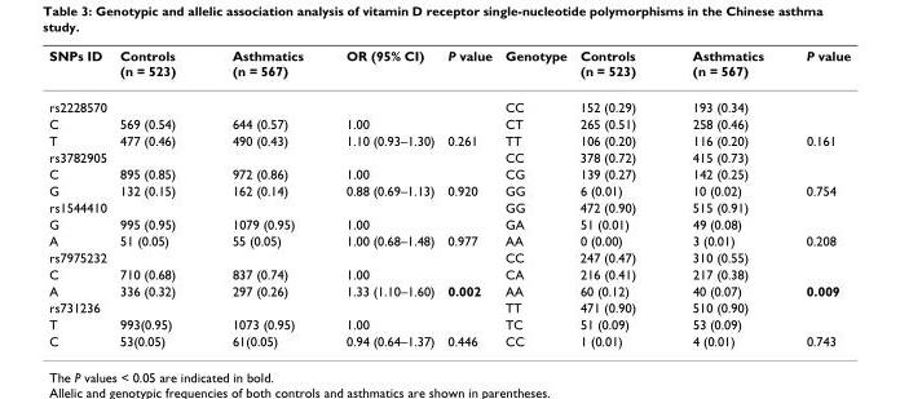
<table><thead><tr><td>SNPs ID</td><td>Controls (n = 523)</td><td>Asthmatics (n = 567)</td><td>OR (95% CI)</td><td>P value</td><td>Genotype</td><td>Controls (n = 523)</td><td>Asthmatics (n = 567)</td><td>P value</td></tr></thead><tbody><tr><td>rs2228570</td><td></td><td></td><td></td><td></td><td>CC</td><td>152 (0.29)</td><td>193 (0.34)</td><td></td></tr><tr><td>C</td><td>569 (0.54)</td><td>644 (0.57)</td><td>1.00</td><td></td><td>CT</td><td>265 (0.51)</td><td>258 (0.46)</td><td></td></tr><tr><td>T</td><td>477 (0.46)</td><td>490 (0.43)</td><td>1.10 (0.93–1.30)</td><td>0.261</td><td>TT</td><td>106 (0.20)</td><td>116 (0.20)</td><td>0.161</td></tr><tr><td>rs3782905</td><td></td><td></td><td></td><td></td><td>CC</td><td>378 (0.72)</td><td>415 (0.73)</td><td></td></tr><tr><td>C</td><td>895 (0.85)</td><td>972 (0.86)</td><td>1.00</td><td></td><td>CG</td><td>139 (0.27)</td><td>142 (0.25)</td><td></td></tr><tr><td>G</td><td>132 (0.15)</td><td>162 (0.14)</td><td>0.88 (0.69–1.13)</td><td>0.920</td><td>GG</td><td>6 (0.01)</td><td>10 (0.02)</td><td>0.754</td></tr><tr><td>rs1544410</td><td></td><td></td><td></td><td></td><td>GG</td><td>472 (0.90)</td><td>515 (0.91)</td><td></td></tr><tr><td>G</td><td>995 (0.95)</td><td>1079 (0.95)</td><td>1.00</td><td></td><td>GA</td><td>51 (0.01)</td><td>49 (0.08)</td><td></td></tr><tr><td>A</td><td>51 (0.05)</td><td>55 (0.05)</td><td>1.00 (0.68–1.48)</td><td>0.977</td><td>AA</td><td>0 (0.00)</td><td>3 (0.01)</td><td>0.208</td></tr><tr><td>rs7975232</td><td></td><td></td><td></td><td></td><td>CC</td><td>247 (0.47)</td><td>310 (0.55)</td><td></td></tr><tr><td>C</td><td>710 (0.68)</td><td>837 (0.74)</td><td>1.00</td><td></td><td>CA</td><td>216 (0.41)</td><td>217 (0.38)</td><td></td></tr><tr><td>A</td><td>336 (0.32)</td><td>297 (0.26)</td><td>1.33 (1.10–1.60)</td><td>0.002</td><td>AA</td><td>60 (0.12)</td><td>40 (0.07)</td><td>0.009</td></tr><tr><td>rs731236</td><td></td><td></td><td></td><td></td><td>TT</td><td>471 (0.90)</td><td>510 (0.90)</td><td></td></tr><tr><td>T</td><td>993(0.95)</td><td>1073 (0.95)</td><td>1.00</td><td></td><td>TC</td><td>51 (0.09)</td><td>53 (0.09)</td><td></td></tr><tr><td>C</td><td>53(0.05)</td><td>61(0.05)</td><td>0.94 (0.64–1.37)</td><td>0.446</td><td>CC</td><td>1 (0.01)</td><td>4 (0.01)</td><td>0.743</td></tr></tbody></table>